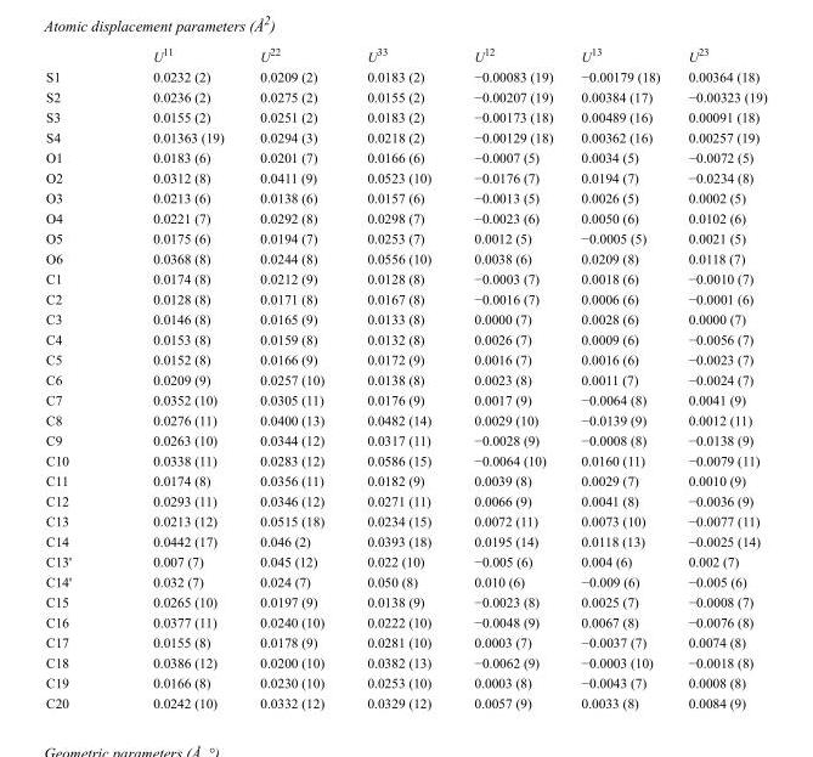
<table><thead><tr><td></td><td>U<sup>11</sup></td><td>U<sup>22</sup></td><td>U<sup>33</sup></td><td>U<sup>12</sup></td><td>U<sup>13</sup></td><td>U<sup>23</sup></td></tr></thead><tbody><tr><td>S1</td><td>0.0232 (2)</td><td>0.0209 (2)</td><td>0.0183 (2)</td><td>−0.00083 (19)</td><td>−0.00179 (18)</td><td>0.00364 (18)</td></tr><tr><td>S2</td><td>0.0236 (2)</td><td>0.0275 (2)</td><td>0.0155 (2)</td><td>−0.00207 (19)</td><td>0.00384 (17)</td><td>−0.00323 (19)</td></tr><tr><td>S3</td><td>0.0155 (2)</td><td>0.0251 (2)</td><td>0.0183 (2)</td><td>−0.00173 (18)</td><td>0.00489 (16)</td><td>0.00091 (18)</td></tr><tr><td>S4</td><td>0.01363 (19)</td><td>0.0294 (3)</td><td>0.0218 (2)</td><td>−0.00129 (18)</td><td>0.00362 (16)</td><td>0.00257 (19)</td></tr><tr><td>O1</td><td>0.0183 (6)</td><td>0.0201 (7)</td><td>0.0166 (6)</td><td>−0.0007 (5)</td><td>0.0034 (5)</td><td>−0.0072 (5)</td></tr><tr><td>O2</td><td>0.0312 (8)</td><td>0.0411 (9)</td><td>0.0523 (10)</td><td>−0.0176 (7)</td><td>0.0194 (7)</td><td>−0.0234 (8)</td></tr><tr><td>O3</td><td>0.0213 (6)</td><td>0.0138 (6)</td><td>0.0157 (6)</td><td>−0.0013 (5)</td><td>0.0026 (5)</td><td>0.0002 (5)</td></tr><tr><td>O4</td><td>0.0221 (7)</td><td>0.0292 (8)</td><td>0.0298 (7)</td><td>−0.0023 (6)</td><td>0.0050 (6)</td><td>0.0102 (6)</td></tr><tr><td>O5</td><td>0.0175 (6)</td><td>0.0194 (7)</td><td>0.0253 (7)</td><td>0.0012 (5)</td><td>−0.0005 (5)</td><td>0.0021 (5)</td></tr><tr><td>O6</td><td>0.0368 (8)</td><td>0.0244 (8)</td><td>0.0556 (10)</td><td>0.0038 (6)</td><td>0.0209 (8)</td><td>0.0118 (7)</td></tr><tr><td>C1</td><td>0.0174 (8)</td><td>0.0212 (9)</td><td>0.0128 (8)</td><td>−0.0003 (7)</td><td>0.0018 (6)</td><td>−0.0010 (7)</td></tr><tr><td>C2</td><td>0.0128 (8)</td><td>0.0171 (8)</td><td>0.0167 (8)</td><td>−0.0016 (7)</td><td>0.0006 (6)</td><td>−0.0001 (6)</td></tr><tr><td>C3</td><td>0.0146 (8)</td><td>0.0165 (9)</td><td>0.0133 (8)</td><td>0.0000 (7)</td><td>0.0028 (6)</td><td>0.0000 (7)</td></tr><tr><td>C4</td><td>0.0153 (8)</td><td>0.0159 (8)</td><td>0.0132 (8)</td><td>0.0026 (7)</td><td>0.0009 (6)</td><td>−0.0056 (7)</td></tr><tr><td>C5</td><td>0.0152 (8)</td><td>0.0166 (9)</td><td>0.0172 (9)</td><td>0.0016 (7)</td><td>0.0016 (6)</td><td>−0.0023 (7)</td></tr><tr><td>C6</td><td>0.0209 (9)</td><td>0.0257 (10)</td><td>0.0138 (8)</td><td>0.0023 (8)</td><td>0.0011 (7)</td><td>−0.0024 (7)</td></tr><tr><td>C7</td><td>0.0352 (10)</td><td>0.0305 (11)</td><td>0.0176 (9)</td><td>0.0017 (9)</td><td>−0.0064 (8)</td><td>0.0041 (9)</td></tr><tr><td>C8</td><td>0.0276 (11)</td><td>0.0400 (13)</td><td>0.0482 (14)</td><td>0.0029 (10)</td><td>−0.0139 (9)</td><td>0.0012 (11)</td></tr><tr><td>C9</td><td>0.0263 (10)</td><td>0.0344 (12)</td><td>0.0317 (11)</td><td>−0.0028 (9)</td><td>−0.0008 (8)</td><td>−0.0138 (9)</td></tr><tr><td>C10</td><td>0.0338 (11)</td><td>0.0283 (12)</td><td>0.0586 (15)</td><td>−0.0064 (10)</td><td>0.0160 (11)</td><td>−0.0079 (11)</td></tr><tr><td>C11</td><td>0.0174 (8)</td><td>0.0356 (11)</td><td>0.0182 (9)</td><td>0.0039 (8)</td><td>0.0029 (7)</td><td>0.0010 (9)</td></tr><tr><td>C12</td><td>0.0293 (11)</td><td>0.0346 (12)</td><td>0.0271 (11)</td><td>0.0066 (9)</td><td>0.0041 (8)</td><td>−0.0036 (9)</td></tr><tr><td>C13</td><td>0.0213 (12)</td><td>0.0515 (18)</td><td>0.0234 (15)</td><td>0.0072 (11)</td><td>0.0073 (10)</td><td>−0.0077 (11)</td></tr><tr><td>C14</td><td>0.0442 (17)</td><td>0.046 (2)</td><td>0.0393 (18)</td><td>0.0195 (14)</td><td>0.0118 (13)</td><td>−0.0025 (14)</td></tr><tr><td>C13&#x27;</td><td>0.007 (7)</td><td>0.045 (12)</td><td>0.022 (10)</td><td>−0.005 (6)</td><td>0.004 (6)</td><td>0.002 (7)</td></tr><tr><td>C14&#x27;</td><td>0.032 (7)</td><td>0.024 (7)</td><td>0.050 (8)</td><td>0.010 (6)</td><td>−0.009 (6)</td><td>−0.005 (6)</td></tr><tr><td>C15</td><td>0.0265 (10)</td><td>0.0197 (9)</td><td>0.0138 (9)</td><td>−0.0023 (8)</td><td>0.0025 (7)</td><td>−0.0008 (7)</td></tr><tr><td>C16</td><td>0.0377 (11)</td><td>0.0240 (10)</td><td>0.0222 (10)</td><td>−0.0048 (9)</td><td>0.0067 (8)</td><td>−0.0076 (8)</td></tr><tr><td>C17</td><td>0.0155 (8)</td><td>0.0178 (9)</td><td>0.0281 (10)</td><td>0.0003 (7)</td><td>−0.0037 (7)</td><td>0.0074 (8)</td></tr><tr><td>C18</td><td>0.0386 (12)</td><td>0.0200 (10)</td><td>0.0382 (13)</td><td>−0.0062 (9)</td><td>−0.0003 (10)</td><td>−0.0018 (8)</td></tr><tr><td>C19</td><td>0.0166 (8)</td><td>0.0230 (10)</td><td>0.0253 (10)</td><td>0.0003 (8)</td><td>−0.0043 (7)</td><td>0.0008 (8)</td></tr><tr><td>C20</td><td>0.0242 (10)</td><td>0.0332 (12)</td><td>0.0329 (12)</td><td>0.0057 (9)</td><td>0.0033 (8)</td><td>0.0084 (9)</td></tr></tbody></table>